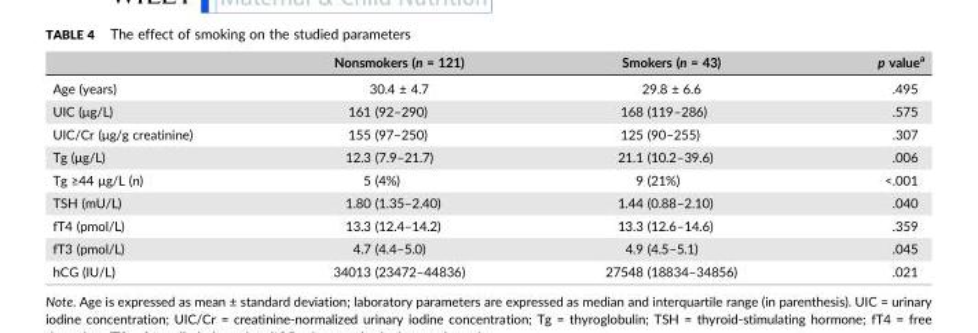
<table><thead><tr><td></td><td>Nonsmokers (n = 121)</td><td>Smokers (n = 43)</td><td>p value<sup>a</sup></td></tr></thead><tbody><tr><td>Age (years)</td><td>30.4 ± 4.7</td><td>29.8 ± 6.6</td><td>.495</td></tr><tr><td>UIC (μg/L)</td><td>161 (92–290)</td><td>168 (119–286)</td><td>.575</td></tr><tr><td>UIC/Cr (μg/g creatinine)</td><td>155 (97–250)</td><td>125 (90–255)</td><td>.307</td></tr><tr><td>Tg (μg/L)</td><td>12.3 (7.9–21.7)</td><td>21.1 (10.2–39.6)</td><td>.006</td></tr><tr><td>Tg ≥44 μg/L (n)</td><td>5 (4%)</td><td>9 (21%)</td><td>&lt;.001</td></tr><tr><td>TSH (mU/L)</td><td>1.80 (1.35–2.40)</td><td>1.44 (0.88–2.10)</td><td>.040</td></tr><tr><td>fT4 (pmol/L)</td><td>13.3 (12.4–14.2)</td><td>13.3 (12.6–14.6)</td><td>.359</td></tr><tr><td>fT3 (pmol/L)</td><td>4.7 (4.4–5.0)</td><td>4.9 (4.5–5.1)</td><td>.045</td></tr><tr><td>hCG (IU/L)</td><td>34013 (23472–44836)</td><td>27548 (18834–34856)</td><td>.021</td></tr></tbody></table>